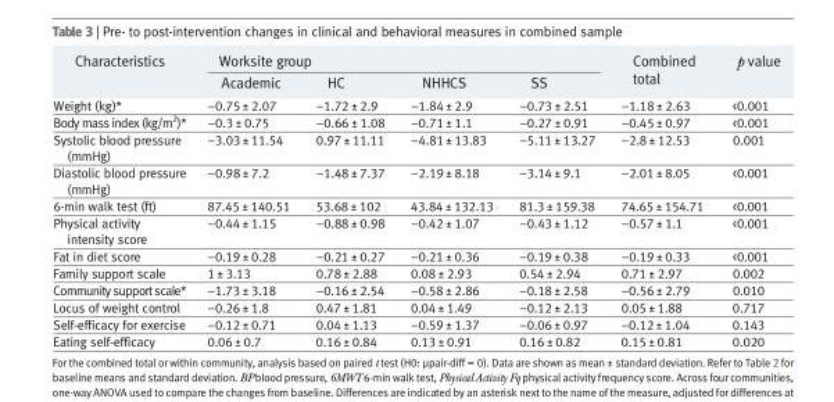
<table><thead><tr><td rowspan="2">Characteristics</td><td colspan="4">Worksite group</td><td rowspan="2">Combined total</td><td rowspan="2">p value</td></tr><tr><td>Academic</td><td>HC</td><td>NHHCS</td><td>SS</td></tr></thead><tbody><tr><td>Weight (kg)*</td><td>−0.75 ± 2.07</td><td>−1.72 ± 2.9</td><td>−1.84 ± 2.9</td><td>−0.73 ± 2.51</td><td>−1.18 ± 2.63</td><td>&lt;0.001</td></tr><tr><td>Body mass index (kg/m<sup>2</sup>)*</td><td>−0.3 ± 0.75</td><td>−0.66 ± 1.08</td><td>−0.71 ± 1.1</td><td>−0.27 ± 0.91</td><td>−0.45 ± 0.97</td><td>&lt;0.001</td></tr><tr><td>Systolic blood pressure (mmHg)</td><td>−3.03 ± 11.54</td><td>0.97 ± 11.11</td><td>−4.81 ± 13.83</td><td>−5.11 ± 13.27</td><td>−2.8 ± 12.53</td><td>0.001</td></tr><tr><td>Diastolic blood pressure (mmHg)</td><td>−0.98 ± 7.2</td><td>−1.48 ± 7.37</td><td>−2.19 ± 8.18</td><td>−3.14 ± 9.1</td><td>−2.01 ± 8.05</td><td>&lt;0.001</td></tr><tr><td>6-min walk test (ft)</td><td>87.45 ± 140.51</td><td>53.68 ± 102</td><td>43.84 ± 132.13</td><td>81.3 ± 159.38</td><td>74.65 ± 154.71</td><td>&lt;0.001</td></tr><tr><td>Physical activity intensity score</td><td>−0.44 ± 1.15</td><td>−0.88 ± 0.98</td><td>−0.42 ± 1.07</td><td>−0.43 ± 1.12</td><td>−0.57 ± 1.1</td><td>&lt;0.001</td></tr><tr><td>Fat in diet score</td><td>−0.19 ± 0.28</td><td>−0.21 ± 0.27</td><td>−0.21 ± 0.36</td><td>−0.19 ± 0.38</td><td>−0.19 ± 0.33</td><td>&lt;0.001</td></tr><tr><td>Family support scale</td><td>1 ± 3.13</td><td>0.78 ± 2.88</td><td>0.08 ± 2.93</td><td>0.54 ± 2.94</td><td>0.71 ± 2.97</td><td>0.002</td></tr><tr><td>Community supportscale*</td><td>−1.73 ± 3.18</td><td>−0.16 ± 2.54</td><td>−0.58 ± 2.86</td><td>−0.18 ± 2.58</td><td>−0.56 ± 2.79</td><td>0.010</td></tr><tr><td>Locus of weight control</td><td>−0.26 ± 1.8</td><td>0.47 ± 1.81</td><td>0.04 ± 1.49</td><td>−0.12 ± 2.13</td><td>0.05 ± 1.88</td><td>0.717</td></tr><tr><td>Self-efficacy for exercise</td><td>−0.12 ± 0.71</td><td>0.04 ± 1.13</td><td>−0.59 ± 1.37</td><td>−0.06 ± 0.97</td><td>−0.12 ± 1.04</td><td>0.143</td></tr><tr><td>Eating self-efficacy</td><td>0.06 ± 0.7</td><td>0.16 ± 0.84</td><td>0.13 ± 0.91</td><td>0.16 ± 0.82</td><td>0.15 ± 0.81</td><td>0.020</td></tr></tbody></table>